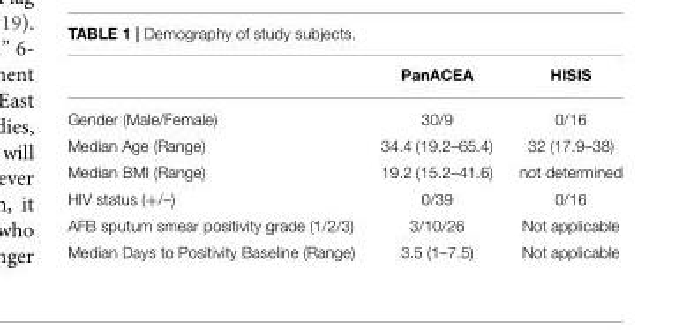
<table><thead><tr><td></td><td>PanACEA</td><td>HISIS</td></tr></thead><tbody><tr><td>Gender (Male/Female)</td><td>30/9</td><td>0/16</td></tr><tr><td>Median Age (Range)</td><td>34.4 (19.2–65.4)</td><td>32 (17.9–38)</td></tr><tr><td>Median BMI (Range)</td><td>19.2 (15.2–41.6)</td><td>not determined</td></tr><tr><td>HIV status (+/–)</td><td>0/39</td><td>0/16</td></tr><tr><td>AFB sputum smear positivity grade (1/2/3)</td><td>3/10/26</td><td>Not applicable</td></tr><tr><td>Median Days to Positivity Baseline (Range)</td><td>3.5 (1–7.5)</td><td>Not applicable</td></tr></tbody></table>